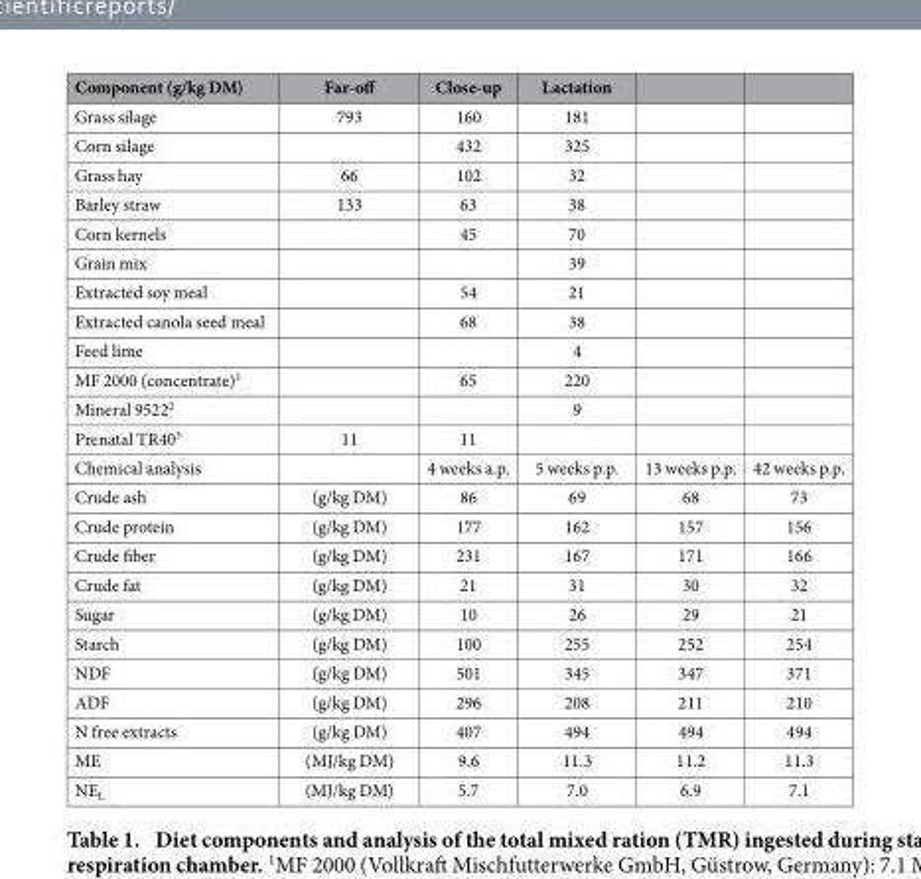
<table><thead><tr><td>Component (g/kg DM)</td><td>Far-off</td><td>Close-up</td><td>Lactation</td><td></td><td></td></tr></thead><tbody><tr><td>Grass silage</td><td>793</td><td>160</td><td>181</td><td></td><td></td></tr><tr><td>Corn silage</td><td></td><td>432</td><td>325</td><td></td><td></td></tr><tr><td>Grass hay</td><td>66</td><td>102</td><td>32</td><td></td><td></td></tr><tr><td>Barley straw</td><td>133</td><td>63</td><td>38</td><td></td><td></td></tr><tr><td>Corn kernels</td><td></td><td>45</td><td>70</td><td></td><td></td></tr><tr><td>Grain mix</td><td></td><td></td><td>39</td><td></td><td></td></tr><tr><td>Extracted soy meal</td><td></td><td>54</td><td>21</td><td></td><td></td></tr><tr><td>Extracted canola seed meal</td><td></td><td>68</td><td>38</td><td></td><td></td></tr><tr><td>Feed lime</td><td></td><td></td><td>4</td><td></td><td></td></tr><tr><td>MF 2000 (concentrate)<sup>1</sup></td><td></td><td>65</td><td>220</td><td></td><td></td></tr><tr><td>Mineral 9522<sup>2</sup></td><td></td><td></td><td>9</td><td></td><td></td></tr><tr><td>Prenatal TR40<sup>3</sup></td><td>11</td><td>11</td><td></td><td></td><td></td></tr><tr><td>Chemical analysis</td><td></td><td>4 weeks a.p.</td><td>5 weeks p.p.</td><td>13 weeks p.p.</td><td>42 weeks p.p.</td></tr><tr><td>Crude ash</td><td>(g/kg DM)</td><td>86</td><td>69</td><td>68</td><td>73</td></tr><tr><td>Crude protein</td><td>(g/kg DM)</td><td>177</td><td>162</td><td>157</td><td>156</td></tr><tr><td>Crude fiber</td><td>(g/kg DM)</td><td>231</td><td>167</td><td>171</td><td>166</td></tr><tr><td>Crude fat</td><td>(g/kg DM)</td><td>21</td><td>31</td><td>30</td><td>32</td></tr><tr><td>Sugar</td><td>(g/kg DM)</td><td>10</td><td>26</td><td>29</td><td>21</td></tr><tr><td>Starch</td><td>(g/kg DM)</td><td>100</td><td>255</td><td>252</td><td>254</td></tr><tr><td>NDF</td><td>(g/kg DM)</td><td>501</td><td>345</td><td>347</td><td>371</td></tr><tr><td>ADF</td><td>(g/kg DM)</td><td>296</td><td>208</td><td>211</td><td>210</td></tr><tr><td>N free extracts</td><td>(g/kg DM)</td><td>407</td><td>494</td><td>494</td><td>494</td></tr><tr><td>ME</td><td>(MJ/kg DM)</td><td>9.6</td><td>11.3</td><td>11.2</td><td>11.3</td></tr><tr><td>NE<sub>L</sub></td><td>(MJ/kg DM)</td><td>5.7</td><td>7.0</td><td>6.9</td><td>7.1</td></tr></tbody></table>